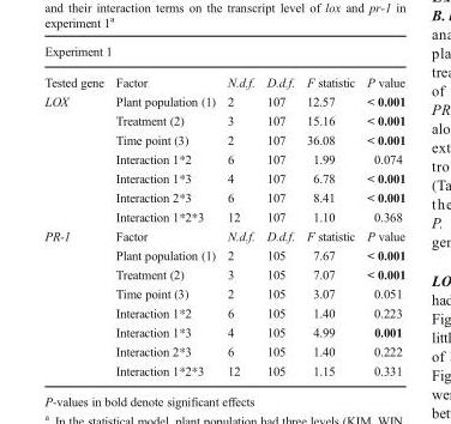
<table><thead><tr><td colspan="6">Experiment 1</td></tr><tr><td>Tested gene</td><td>Factor</td><td>N.d.f.</td><td>D.d.f.</td><td>F statistic</td><td>P value</td></tr></thead><tbody><tr><td rowspan="7">LOX</td><td>Plant population (1)</td><td>2</td><td>107</td><td>12.57</td><td>&lt; 0.001</td></tr><tr><td>Treatment (2)</td><td>3</td><td>107</td><td>15.16</td><td>&lt; 0.001</td></tr><tr><td>Time point (3)</td><td>2</td><td>107</td><td>36.08</td><td>&lt; 0.001</td></tr><tr><td>Interaction 1*2</td><td>6</td><td>107</td><td>1.99</td><td>0.074</td></tr><tr><td>Interaction 1*3</td><td>4</td><td>107</td><td>6.78</td><td>&lt; 0.001</td></tr><tr><td>Interaction 2*3</td><td>6</td><td>107</td><td>8.41</td><td>&lt; 0.001</td></tr><tr><td>Interaction 1*2*3</td><td>12</td><td>107</td><td>1.10</td><td>0.368</td></tr><tr><td rowspan="8">PR-1</td><td>Factor</td><td>N.d.f.</td><td>D.d.f.</td><td>F statistic</td><td>P value</td></tr><tr><td>Plant population (1)</td><td>2</td><td>105</td><td>7.67</td><td>&lt; 0.001</td></tr><tr><td>Treatment (2)</td><td>3</td><td>105</td><td>7.07</td><td>&lt; 0.001</td></tr><tr><td>Time point (3)</td><td>2</td><td>105</td><td>3.07</td><td>0.051</td></tr><tr><td>Interaction 1*2</td><td>6</td><td>105</td><td>1.40</td><td>0.223</td></tr><tr><td>Interaction 1*3</td><td>4</td><td>105</td><td>4.99</td><td>0.001</td></tr><tr><td>Interaction 2*3</td><td>6</td><td>105</td><td>1.40</td><td>0.222</td></tr><tr><td>Interaction 1*2*3</td><td>12</td><td>105</td><td>1.15</td><td>0.331</td></tr></tbody></table>